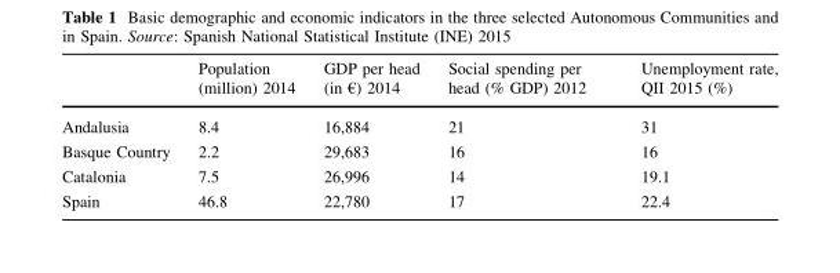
<table><thead><tr><td></td><td>Population (million) 2014</td><td>GDP per head (in €) 2014</td><td>Social spending per head (% GDP) 2012</td><td>Unemployment rate, QII 2015 (%)</td></tr></thead><tbody><tr><td>Andalusia</td><td>8.4</td><td>16,884</td><td>21</td><td>31</td></tr><tr><td>Basque Country</td><td>2.2</td><td>29,683</td><td>16</td><td>16</td></tr><tr><td>Catalonia</td><td>7.5</td><td>26,996</td><td>14</td><td>19.1</td></tr><tr><td>Spain</td><td>46.8</td><td>22,780</td><td>17</td><td>22.4</td></tr></tbody></table>